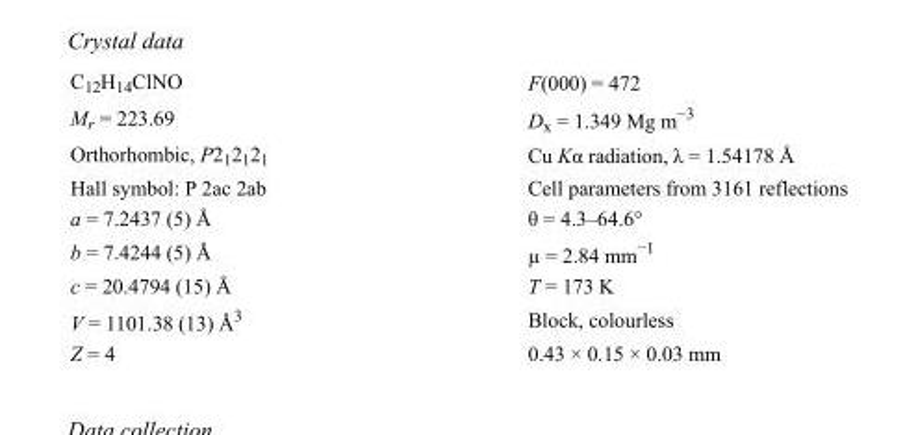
<table><tbody><tr><td>C<sub>12</sub>H<sub>14</sub>ClNO</td><td>F(000) = 472</td></tr><tr><td>M<sub>r</sub> = 223.69</td><td>D<sub>x</sub> = 1.349 Mg m<sup>−3</sup></td></tr><tr><td>Orthorhombic, P2<sub>1</sub>2<sub>1</sub>2<sub>1</sub></td><td>Cu Kα radiation, λ = 1.54178 Å</td></tr><tr><td>Hall symbol: P 2ac 2ab</td><td>Cell parameters from 3161 reflections</td></tr><tr><td>a = 7.2437 (5) Å</td><td>θ = 4.3–64.6°</td></tr><tr><td>b = 7.4244 (5) Å</td><td>µ = 2.84 mm<sup>−1</sup></td></tr><tr><td>c = 20.4794 (15) Å</td><td>T = 173 K</td></tr><tr><td>V = 1101.38 (13) Å<sup>3</sup></td><td>Block, colourless</td></tr><tr><td>Z = 4</td><td>0.43 × 0.15 × 0.03 mm</td></tr></tbody></table>